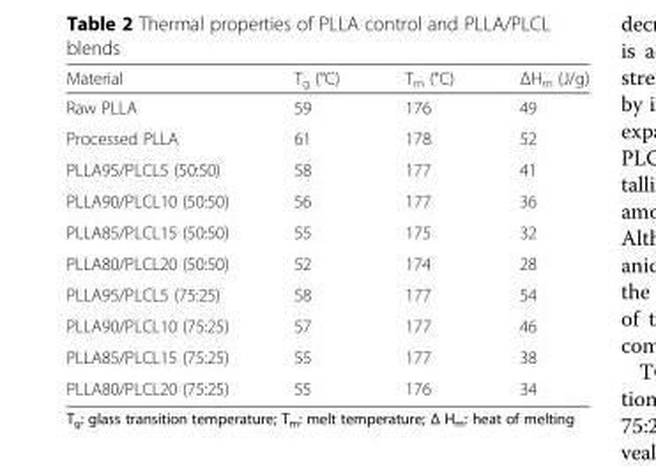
<table><thead><tr><td>Material</td><td>T<sub>g</sub> (°C)</td><td>T<sub>m</sub> (°C)</td><td>ΔH<sub>m</sub> (J/g)</td></tr></thead><tbody><tr><td>Raw PLLA</td><td>59</td><td>176</td><td>49</td></tr><tr><td>Processed PLLA</td><td>61</td><td>178</td><td>52</td></tr><tr><td>PLLA95/PLCL5 (50:50)</td><td>58</td><td>177</td><td>41</td></tr><tr><td>PLLA90/PLCL10 (50:50)</td><td>56</td><td>177</td><td>36</td></tr><tr><td>PLLA85/PLCL15 (50:50)</td><td>55</td><td>175</td><td>32</td></tr><tr><td>PLLA80/PLCL20 (50:50)</td><td>52</td><td>174</td><td>28</td></tr><tr><td>PLLA95/PLCL5 (75:25)</td><td>58</td><td>177</td><td>54</td></tr><tr><td>PLLA90/PLCL10 (75:25)</td><td>57</td><td>177</td><td>46</td></tr><tr><td>PLLA85/PLCL15 (75:25)</td><td>55</td><td>177</td><td>38</td></tr><tr><td>PLLA80/PLCL20 (75:25)</td><td>55</td><td>176</td><td>34</td></tr></tbody></table>